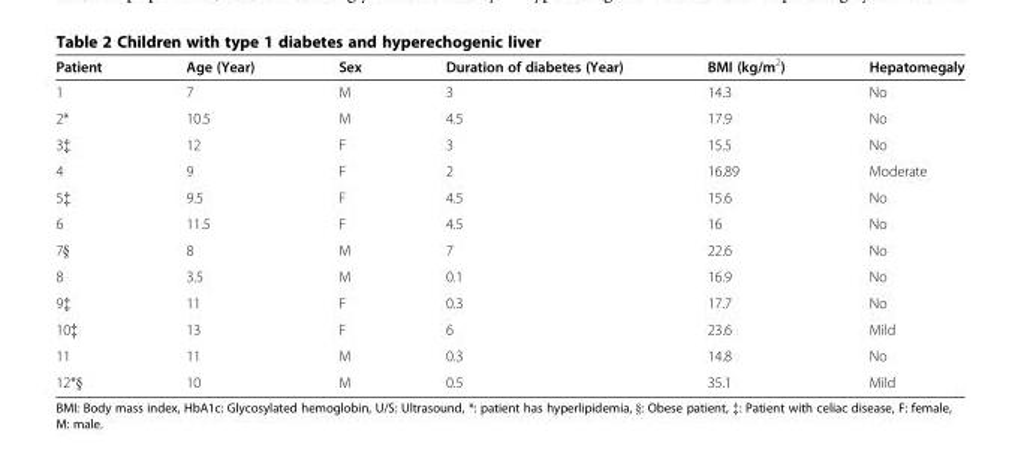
<table><thead><tr><td>Patient</td><td>Age (Year)</td><td>Sex</td><td>Duration of diabetes (Year)</td><td>BMI (kg/m<sup>2</sup>)</td><td>Hepatomegaly</td></tr></thead><tbody><tr><td>1</td><td>7</td><td>M</td><td>3</td><td>14.3</td><td>No</td></tr><tr><td>2*</td><td>10.5</td><td>M</td><td>4.5</td><td>17.9</td><td>No</td></tr><tr><td>3‡</td><td>12</td><td>F</td><td>3</td><td>15.5</td><td>No</td></tr><tr><td>4</td><td>9</td><td>F</td><td>2</td><td>16.89</td><td>Moderate</td></tr><tr><td>5‡</td><td>9.5</td><td>F</td><td>4.5</td><td>15.6</td><td>No</td></tr><tr><td>6</td><td>11.5</td><td>F</td><td>4.5</td><td>16</td><td>No</td></tr><tr><td>7§</td><td>8</td><td>M</td><td>7</td><td>22.6</td><td>No</td></tr><tr><td>8</td><td>3.5</td><td>M</td><td>0.1</td><td>16.9</td><td>No</td></tr><tr><td>9‡</td><td>11</td><td>F</td><td>0.3</td><td>17.7</td><td>No</td></tr><tr><td>10‡</td><td>13</td><td>F</td><td>6</td><td>23.6</td><td>Mild</td></tr><tr><td>11</td><td>11</td><td>M</td><td>0.3</td><td>14.8</td><td>No</td></tr><tr><td>12*§</td><td>10</td><td>M</td><td>0.5</td><td>35.1</td><td>Mild</td></tr></tbody></table>